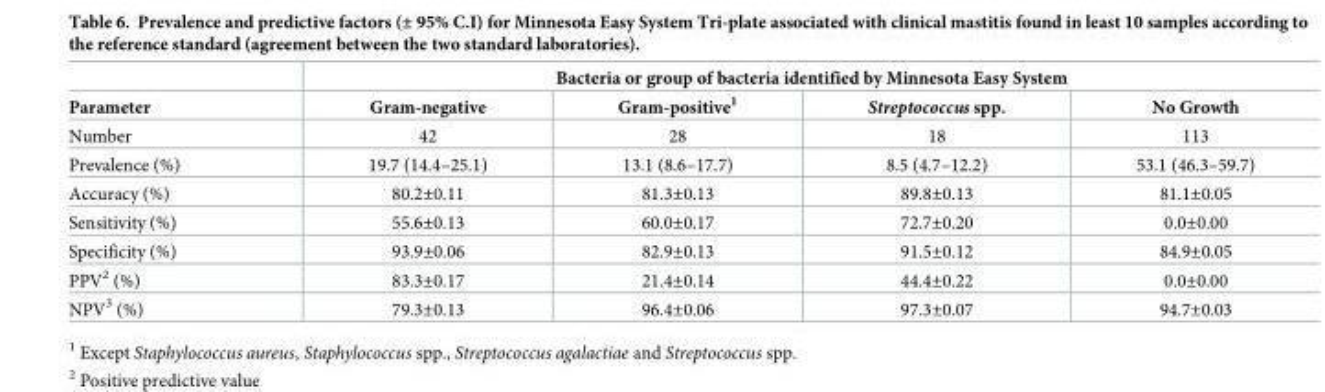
<table><thead><tr><td rowspan="2">Parameter</td><td colspan="4">Bacteria or group of bacteria identified by Minnesota Easy System</td></tr><tr><td>Gram-negative</td><td>Gram-positive<sup>1</sup></td><td>Streptococcus spp.</td><td>No Growth</td></tr></thead><tbody><tr><td>Number</td><td>42</td><td>28</td><td>18</td><td>113</td></tr><tr><td>Prevalence (%)</td><td>19.7 (14.4–25.1)</td><td>13.1 (8.6–17.7)</td><td>8.5 (4.7–12.2)</td><td>53.1 (46.3–59.7)</td></tr><tr><td>Accuracy (%)</td><td>80.2±0.11</td><td>81.3±0.13</td><td>89.8±0.13</td><td>81.1±0.05</td></tr><tr><td>Sensitivity (%)</td><td>55.6±0.13</td><td>60.0±0.17</td><td>72.7±0.20</td><td>0.0±0.00</td></tr><tr><td>Specificity (%)</td><td>93.9±0.06</td><td>82.9±0.13</td><td>91.5±0.12</td><td>84.9±0.05</td></tr><tr><td>PPV<sup>2</sup> (%)</td><td>83.3±0.17</td><td>21.4±0.14</td><td>44.4±0.22</td><td>0.0±0.00</td></tr><tr><td>NPV<sup>3</sup> (%)</td><td>79.3±0.13</td><td>96.4±0.06</td><td>97.3±0.07</td><td>94.7±0.03</td></tr></tbody></table>